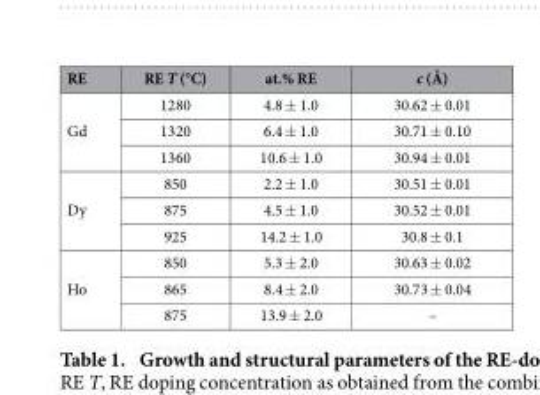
<table><thead><tr><td>RE</td><td>RE T (°C)</td><td>at.% RE</td><td>c (Å)</td></tr></thead><tbody><tr><td rowspan="3">Gd</td><td>1280</td><td>4.8 ± 1.0</td><td>30.62 ± 0.01</td></tr><tr><td>1320</td><td>6.4 ± 1.0</td><td>30.71 ± 0.10</td></tr><tr><td>1360</td><td>10.6 ± 1.0</td><td>30.94 ± 0.01</td></tr><tr><td rowspan="3">Dy</td><td>850</td><td>2.2 ± 1.0</td><td>30.51 ± 0.01</td></tr><tr><td>875</td><td>4.5 ± 1.0</td><td>30.52 ± 0.01</td></tr><tr><td>925</td><td>14.2 ± 1.0</td><td>30.8 ± 0.1</td></tr><tr><td rowspan="3">Ho</td><td>850</td><td>5.3 ± 2.0</td><td>30.63 ± 0.02</td></tr><tr><td>865</td><td>8.4 ± 2.0</td><td>30.73 ± 0.04</td></tr><tr><td>875</td><td>13.9 ± 2.0</td><td>–</td></tr></tbody></table>